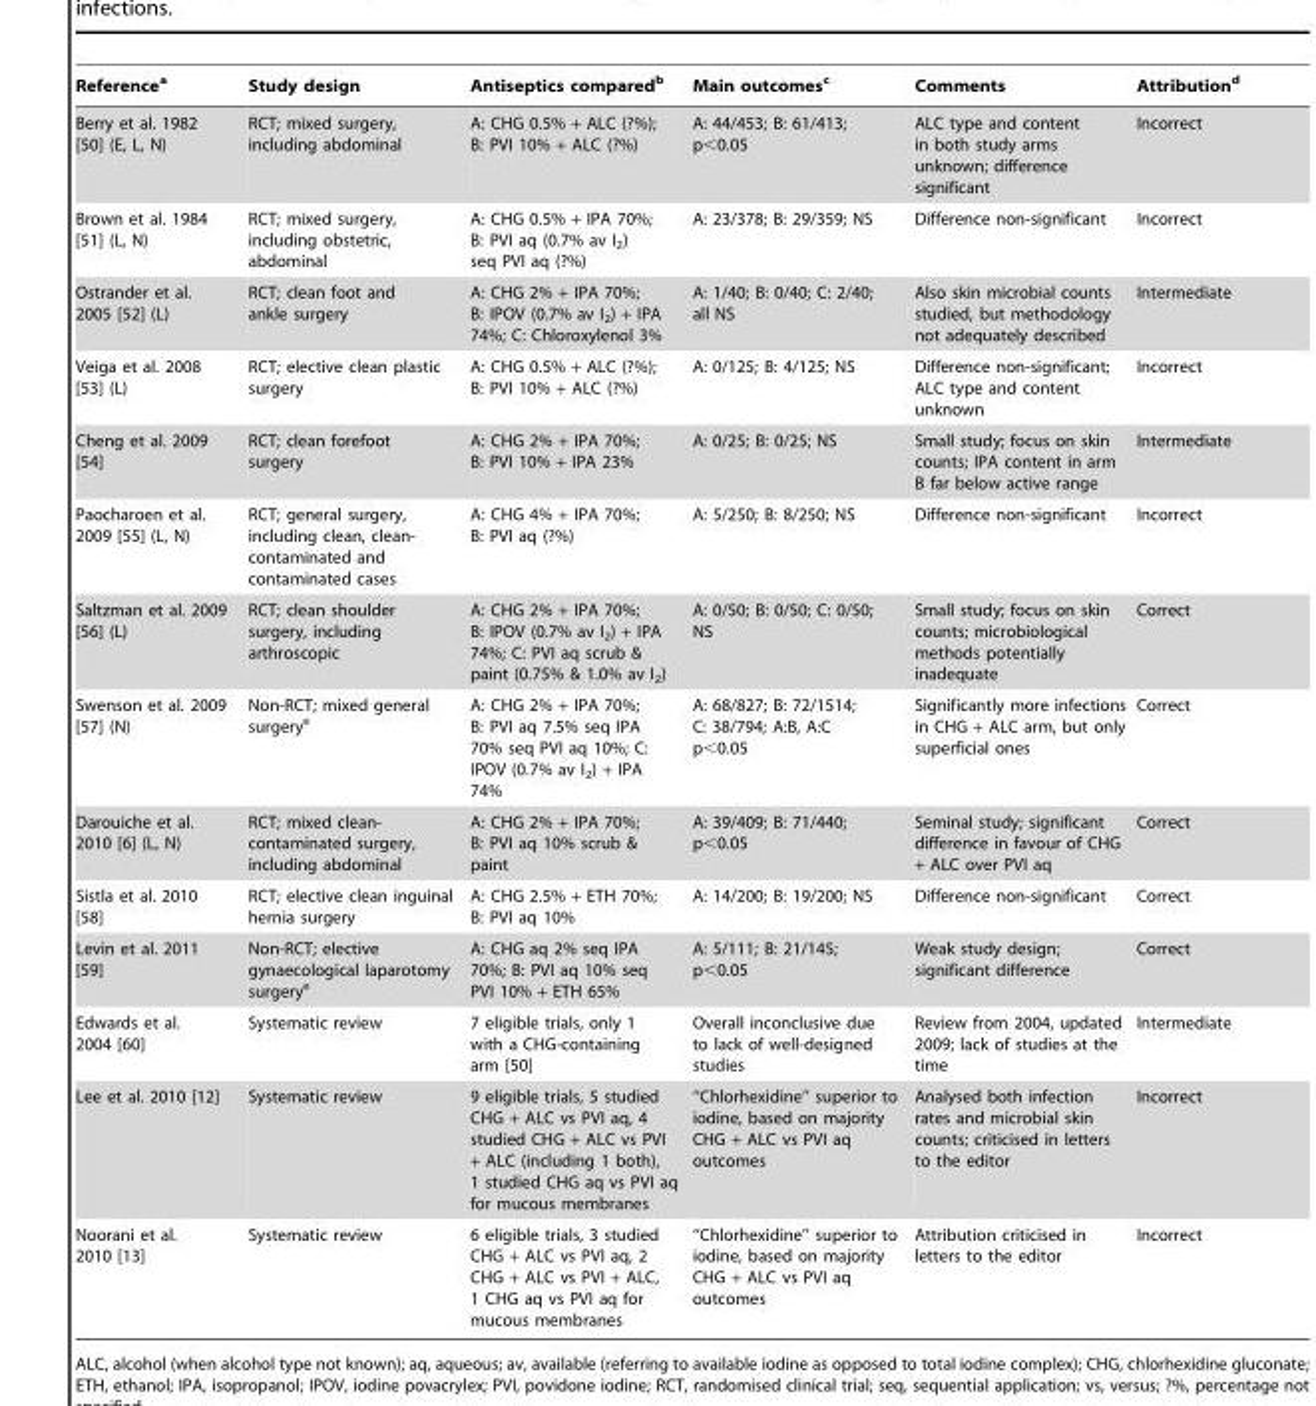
<table><thead><tr><td>Reference<sup>a</sup></td><td>Study design</td><td>Antiseptics compared<sup>b</sup></td><td>Main outcomes<sup>c</sup></td><td>Comments</td><td>Attribution<sup>d</sup></td></tr></thead><tbody><tr><td>Berry et al. 1982 [50] (E, L, N)</td><td>RCT; mixed surgery, including abdominal</td><td>A: CHG 0.5% + ALC (?%); B: PVI 10% + ALC (?%)</td><td>A: 44/453; B: 61/413; p&lt;0.05</td><td>ALC type and content in both study arms unknown; difference significant</td><td>Incorrect</td></tr><tr><td>Brown et al. 1984 [51] (L, N)</td><td>RCT; mixed surgery, including obstetric, abdominal</td><td>A: CHG 0.5% + IPA 70%; B: PVI aq (0.7% av I<sub>2</sub>) seq PVI aq (?%)</td><td>A: 23/378; B: 29/359; NS</td><td>Difference non-significant</td><td>Incorrect</td></tr><tr><td>Ostrander et al. 2005 [52] (L)</td><td>RCT; clean foot and ankle surgery</td><td>A: CHG 2% + IPA 70%; B: IPOV (0.7% av I<sub>2</sub>) + IPA 74%; C: Chloroxylenol 3%</td><td>A: 1/40; B: 0/40; C: 2/40; all NS</td><td>Also skin microbial counts studied, but methodology not adequately described</td><td>Intermediate</td></tr><tr><td>Veiga et al. 2008 [53] (L)</td><td>RCT; elective clean plastic surgery</td><td>A: CHG 0.5% + ALC (?%); B: PVI 10% + ALC (?%)</td><td>A: 0/125; B: 4/125; NS</td><td>Difference non-significant; ALC type and content unknown</td><td>Incorrect</td></tr><tr><td>Cheng et al. 2009 [54]</td><td>RCT; clean forefoot surgery</td><td>A: CHG 2% + IPA 70%; B: PVI 10% + IPA 23%</td><td>A: 0/25; B: 0/25; NS</td><td>Small study; focus on skin counts; IPA content in arm B far below active range</td><td>Intermediate</td></tr><tr><td>Paocharoen et al. 2009 [55] (L, N)</td><td>RCT; general surgery, including clean, clean- contaminated and contaminated cases</td><td>A: CHG 4% + IPA 70%; B: PVI aq (?%)</td><td>A: 5/250; B: 8/250; NS</td><td>Difference non-significant</td><td>Incorrect</td></tr><tr><td>Saltzman et al. 2009 [56] (L)</td><td>RCT; clean shoulder surgery, including arthroscopic</td><td>A: CHG 2% + IPA 70%; B: IPOV (0.7% av I<sub>2</sub>) + IPA 74%; C: PVI aq scrub &amp; paint (0.75% &amp; 1.0% av I<sub>2</sub>)</td><td>A: 0/50; B: 0/50; C: 0/50; NS</td><td>Small study; focus on skin counts; microbiological methods potentially inadequate</td><td>Correct</td></tr><tr><td>Swenson et al. 2009 [57] (N)</td><td>Non-RCT; mixed general surgery<sup>e</sup></td><td>A: CHG 2% + IPA 70%; B: PVI aq 7.5% seq IPA 70% seq PVI aq 10%; C: IPOV (0.7% av I<sub>2</sub>) + IPA 74%</td><td>A: 68/827; B: 72/1514; C: 38/794; A:B, A:C p&lt;0.05</td><td>Significantly more infections in CHG + ALC arm, but only superficial ones</td><td>Correct</td></tr><tr><td>Darouiche et al. 2010 [6] (L, N)</td><td>RCT; mixed clean- contaminated surgery, including abdominal</td><td>A: CHG 2% + IPA 70%; B: PVI aq 10% scrub &amp; paint</td><td>A: 39/409; B: 71/440; p&lt;0.05</td><td>Seminal study; significant difference in favour of CHG + ALC over PVI aq</td><td>Correct</td></tr><tr><td>Sistla et al. 2010 [58]</td><td>RCT; elective clean inguinal hernia surgery</td><td>A: CHG 2.5% + ETH 70%; B: PVI aq 10%</td><td>A: 14/200; B: 19/200; NS</td><td>Difference non-significant</td><td>Correct</td></tr><tr><td>Levin et al. 2011 [59]</td><td>Non-RCT; elective gynaecological laparotomy surgery<sup>e</sup></td><td>A: CHG aq 2% seq IPA 70%; B: PVI aq 10% seq PVI 10% + ETH 65%</td><td>A: 5/111; B: 21/145; p&lt;0.05</td><td>Weak study design; significant difference</td><td>Correct</td></tr><tr><td>Edwards et al. 2004 [60]</td><td>Systematic review</td><td>7 eligible trials, only 1 with a CHG-containing arm [50]</td><td>Overall inconclusive due to lack of well-designed studies</td><td>Review from 2004, updated 2009; lack of studies at the time</td><td>Intermediate</td></tr><tr><td>Lee et al. 2010 [12]</td><td>Systematic review</td><td>9 eligible trials, 5 studied CHG + ALC vs PVI aq, 4 studied CHG + ALC vs PVI + ALC (including 1 both), 1 studied CHG aq vs PVI aq for mucous membranes</td><td>‘‘Chlorhexidine’’ superior to iodine, based on majority CHG + ALC vs PVI aq outcomes</td><td>Analysed both infection rates and microbial skin counts; criticised in letters to the editor</td><td>Incorrect</td></tr><tr><td>Noorani et al. 2010 [13]</td><td>Systematic review</td><td>6 eligible trials, 3 studied CHG + ALC vs PVI aq, 2 CHG + ALC vs PVI + ALC, 1 CHG aq vs PVI aq for mucous membranes</td><td>‘‘Chlorhexidine’’ superior to iodine, based on majority CHG + ALC vs PVI aq outcomes</td><td>Attribution criticised in letters to the editor</td><td>Incorrect</td></tr></tbody></table>